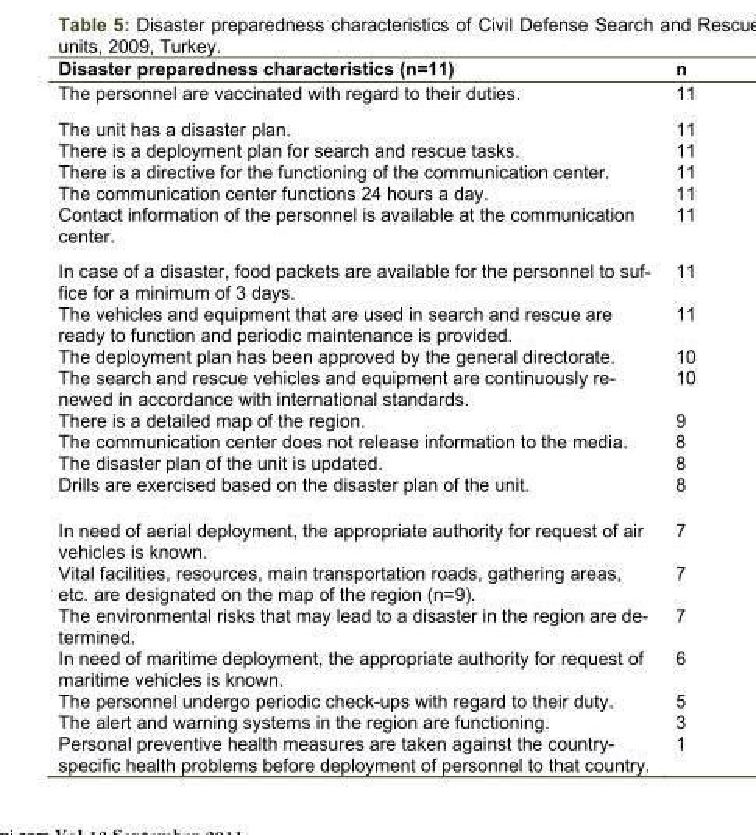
<table><thead><tr><td>Disaster preparedness characteristics (n=11)</td><td>n</td></tr></thead><tbody><tr><td>The personnel are vaccinated with regard to their duties.</td><td>11</td></tr><tr><td>The unit has a disaster plan.</td><td>11</td></tr><tr><td>There is a deployment plan for search and rescue tasks.</td><td>11</td></tr><tr><td>There is a directive for the functioning of the communication center.</td><td>11</td></tr><tr><td>The communication center functions 24 hours a day.</td><td>11</td></tr><tr><td>Contact information of the personnel is available at the communication center.</td><td>11</td></tr><tr><td>In case of a disaster, food packets are available for the personnel to suf- fice for a minimum of 3 days.</td><td>11</td></tr><tr><td>The vehicles and equipment that are used in search and rescue are ready to function and periodic maintenance is provided.</td><td>11</td></tr><tr><td>The deployment plan has been approved by the general directorate.</td><td>10</td></tr><tr><td>The search and rescue vehicles and equipment are continuously re- newed in accordance with international standards.</td><td>10</td></tr><tr><td>There is a detailed map of the region.</td><td>9</td></tr><tr><td>The communication center does not release information to the media.</td><td>8</td></tr><tr><td>The disaster plan of the unit is updated.</td><td>8</td></tr><tr><td>Drills are exercised based on the disaster plan of the unit.</td><td>8</td></tr><tr><td>In need of aerial deployment, the appropriate authority for request of air vehicles is known.</td><td>7</td></tr><tr><td>Vital facilities, resources, main transportation roads, gathering areas, etc. are designated on the map of the region (n=9).</td><td>7</td></tr><tr><td>The environmental risks that may lead to a disaster in the region are de- termined.</td><td>7</td></tr><tr><td>In need of maritime deployment, the appropriate authority for request of maritime vehicles is known.</td><td>6</td></tr><tr><td>The personnel undergo periodic check-ups with regard to their duty.</td><td>5</td></tr><tr><td>The alert and warning systems in the region are functioning.</td><td>3</td></tr><tr><td>Personal preventive health measures are taken against the country- specific health problems before deployment of personnel to that country.</td><td>1</td></tr></tbody></table>